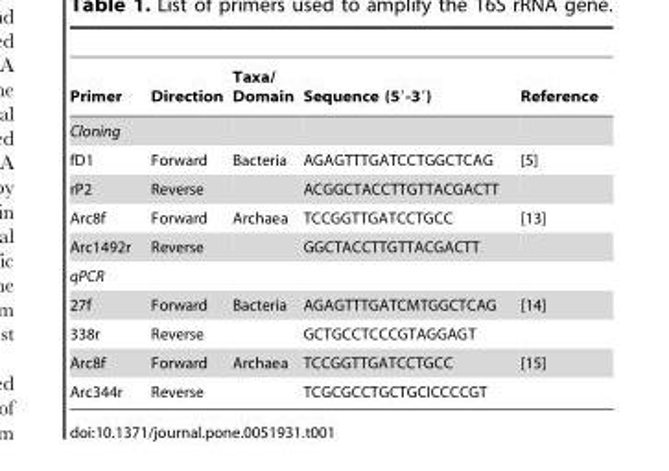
<table><thead><tr><td>Primer</td><td>Direction</td><td>Taxa/ Domain</td><td>Sequence (5′-3′)</td><td>Reference</td></tr></thead><tbody><tr><td colspan="5">Cloning</td></tr><tr><td>fD1</td><td>Forward</td><td>Bacteria</td><td>AGAGTTTGATCCTGGCTCAG</td><td>[5]</td></tr><tr><td>rP2</td><td>Reverse</td><td></td><td>ACGGCTACCTTGTTACGACTT</td><td></td></tr><tr><td>Arc8f</td><td>Forward</td><td>Archaea</td><td>TCCGGTTGATCCTGCC</td><td>[13]</td></tr><tr><td>Arc1492r</td><td>Reverse</td><td></td><td>GGCTACCTTGTTACGACTT</td><td></td></tr><tr><td colspan="5">qPCR</td></tr><tr><td>27f</td><td>Forward</td><td>Bacteria</td><td>AGAGTTTGATCMTGGCTCAG</td><td>[14]</td></tr><tr><td>338r</td><td>Reverse</td><td></td><td>GCTGCCTCCCGTAGGAGT</td><td></td></tr><tr><td>Arc8f</td><td>Forward</td><td>Archaea</td><td>TCCGGTTGATCCTGCC</td><td>[15]</td></tr><tr><td>Arc344r</td><td>Reverse</td><td></td><td>TCGCGCCTGCTGCICCCCGT</td><td></td></tr></tbody></table>